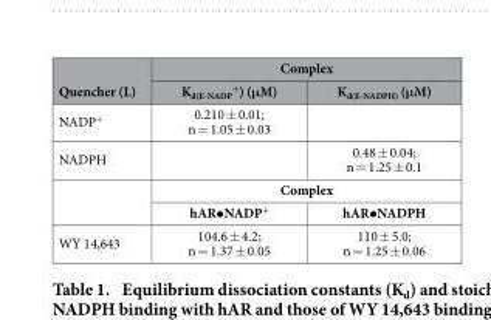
<table><thead><tr><td rowspan="2">Quencher (L)</td><td colspan="2">Complex</td></tr><tr><td>K<sub>d(E-NADP</sub> <sup>+</sup>) (μM)</td><td>K<sub>d(E-NADPH)</sub> (μM)</td></tr></thead><tbody><tr><td>NADP<sup>+</sup></td><td>0.210 ± 0.01; n = 1.05 ± 0.03</td><td></td></tr><tr><td rowspan="3">NADPH</td><td></td><td>0.48 ± 0.04; n = 1.25 ± 0.1</td></tr><tr><td colspan="2">Complex</td></tr><tr><td>hAR•NADP<sup>+</sup></td><td>hAR•NADPH</td></tr><tr><td>WY 14,643</td><td>104.6 ± 4.2; n = 1.37 ± 0.05</td><td>110 ± 5.0; n = 1.25 ± 0.06</td></tr></tbody></table>